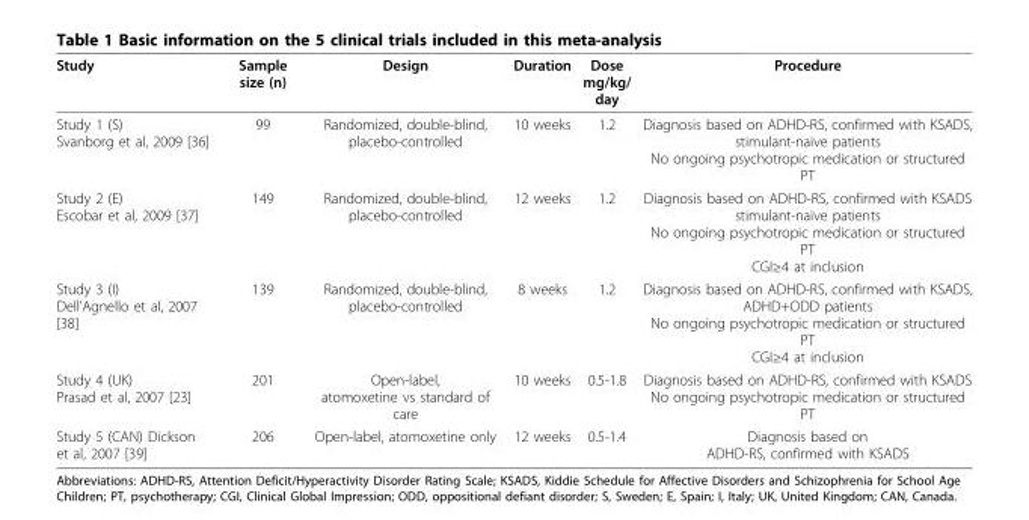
<table><thead><tr><td>Study</td><td>Sample size (n)</td><td>Design</td><td>Duration</td><td>Dose mg/kg/ day</td><td>Procedure</td></tr></thead><tbody><tr><td>Study 1 (S) Svanborg et al, 2009 [36]</td><td>99</td><td>Randomized, double-blind, placebo-controlled</td><td>10 weeks</td><td>1.2</td><td>Diagnosis based on ADHD-RS, confirmed with KSADS, stimulant-naïve patients No ongoing psychotropic medication or structured PT</td></tr><tr><td>Study 2 (E) Escobar et al, 2009 [37]</td><td>149</td><td>Randomized, double-blind, placebo-controlled</td><td>12 weeks</td><td>1.2</td><td>Diagnosis based on ADHD-RS, confirmed with KSADS stimulant-naïve patients No ongoing psychotropic medication or structured PT CGI≥4 at inclusion</td></tr><tr><td>Study 3 (I) Dell’Agnello et al, 2007 [38]</td><td>139</td><td>Randomized, double-blind, placebo-controlled</td><td>8 weeks</td><td>1.2</td><td>Diagnosis based on ADHD-RS, confirmed with KSADS, ADHD+ODD patients No ongoing psychotropic medication or structured PT CGI≥4 at inclusion</td></tr><tr><td>Study 4 (UK) Prasad et al, 2007 [23]</td><td>201</td><td>Open-label, atomoxetine vs standard of care</td><td>10 weeks</td><td>0.5-1.8</td><td>Diagnosis based on ADHD-RS, confirmed with KSADS No ongoing psychotropic medication or structured PT</td></tr><tr><td>Study 5 (CAN) Dickson et al, 2007 [39]</td><td>206</td><td>Open-label, atomoxetine only</td><td>12 weeks</td><td>0.5-1.4</td><td>Diagnosis based on ADHD-RS, confirmed with KSADS</td></tr></tbody></table>